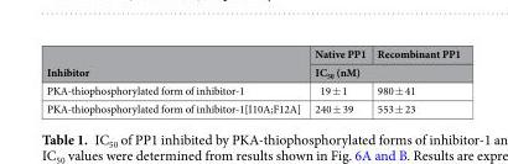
<table><thead><tr><td rowspan="2">Inhibitor</td><td>Native PP1</td><td>Recombinant PP1</td></tr><tr><td colspan="2">IC<sub>50</sub> (nM)</td></tr></thead><tbody><tr><td>PKA-thiophosphorylated form of inhibitor-1</td><td>19 ± 1</td><td>980 ± 41</td></tr><tr><td>PKA-thiophosphorylated form of inhibitor-1[I10A;F12A]</td><td>240 ± 39</td><td>553 ± 23</td></tr></tbody></table>